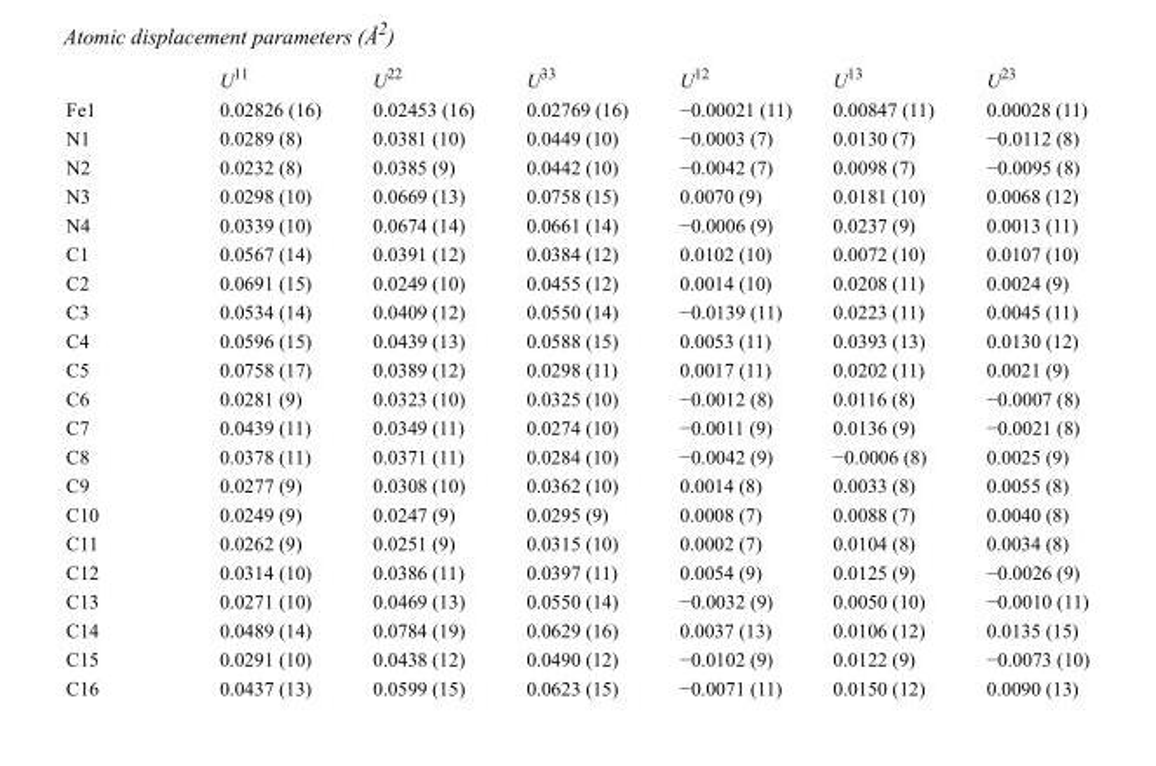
<table><thead><tr><td></td><td>U<sup>11</sup></td><td>U<sup>22</sup></td><td>U<sup>33</sup></td><td>U<sup>12</sup></td><td>U<sup>13</sup></td><td>U<sup>23</sup></td></tr></thead><tbody><tr><td>Fe1</td><td>0.02826 (16)</td><td>0.02453 (16)</td><td>0.02769 (16)</td><td>−0.00021 (11)</td><td>0.00847 (11)</td><td>0.00028 (11)</td></tr><tr><td>N1</td><td>0.0289 (8)</td><td>0.0381 (10)</td><td>0.0449 (10)</td><td>−0.0003 (7)</td><td>0.0130 (7)</td><td>−0.0112 (8)</td></tr><tr><td>N2</td><td>0.0232 (8)</td><td>0.0385 (9)</td><td>0.0442 (10)</td><td>−0.0042 (7)</td><td>0.0098 (7)</td><td>−0.0095 (8)</td></tr><tr><td>N3</td><td>0.0298 (10)</td><td>0.0669 (13)</td><td>0.0758 (15)</td><td>0.0070 (9)</td><td>0.0181 (10)</td><td>0.0068 (12)</td></tr><tr><td>N4</td><td>0.0339 (10)</td><td>0.0674 (14)</td><td>0.0661 (14)</td><td>−0.0006 (9)</td><td>0.0237 (9)</td><td>0.0013 (11)</td></tr><tr><td>C1</td><td>0.0567 (14)</td><td>0.0391 (12)</td><td>0.0384 (12)</td><td>0.0102 (10)</td><td>0.0072 (10)</td><td>0.0107 (10)</td></tr><tr><td>C2</td><td>0.0691 (15)</td><td>0.0249 (10)</td><td>0.0455 (12)</td><td>0.0014 (10)</td><td>0.0208 (11)</td><td>0.0024 (9)</td></tr><tr><td>C3</td><td>0.0534 (14)</td><td>0.0409 (12)</td><td>0.0550 (14)</td><td>−0.0139 (11)</td><td>0.0223 (11)</td><td>0.0045 (11)</td></tr><tr><td>C4</td><td>0.0596 (15)</td><td>0.0439 (13)</td><td>0.0588 (15)</td><td>0.0053 (11)</td><td>0.0393 (13)</td><td>0.0130 (12)</td></tr><tr><td>C5</td><td>0.0758 (17)</td><td>0.0389 (12)</td><td>0.0298 (11)</td><td>0.0017 (11)</td><td>0.0202 (11)</td><td>0.0021 (9)</td></tr><tr><td>C6</td><td>0.0281 (9)</td><td>0.0323 (10)</td><td>0.0325 (10)</td><td>−0.0012 (8)</td><td>0.0116 (8)</td><td>−0.0007 (8)</td></tr><tr><td>C7</td><td>0.0439 (11)</td><td>0.0349 (11)</td><td>0.0274 (10)</td><td>−0.0011 (9)</td><td>0.0136 (9)</td><td>−0.0021 (8)</td></tr><tr><td>C8</td><td>0.0378 (11)</td><td>0.0371 (11)</td><td>0.0284 (10)</td><td>−0.0042 (9)</td><td>−0.0006 (8)</td><td>0.0025 (9)</td></tr><tr><td>C9</td><td>0.0277 (9)</td><td>0.0308 (10)</td><td>0.0362 (10)</td><td>0.0014 (8)</td><td>0.0033 (8)</td><td>0.0055 (8)</td></tr><tr><td>C10</td><td>0.0249 (9)</td><td>0.0247 (9)</td><td>0.0295 (9)</td><td>0.0008 (7)</td><td>0.0088 (7)</td><td>0.0040 (8)</td></tr><tr><td>C11</td><td>0.0262 (9)</td><td>0.0251 (9)</td><td>0.0315 (10)</td><td>0.0002 (7)</td><td>0.0104 (8)</td><td>0.0034 (8)</td></tr><tr><td>C12</td><td>0.0314 (10)</td><td>0.0386 (11)</td><td>0.0397 (11)</td><td>0.0054 (9)</td><td>0.0125 (9)</td><td>−0.0026 (9)</td></tr><tr><td>C13</td><td>0.0271 (10)</td><td>0.0469 (13)</td><td>0.0550 (14)</td><td>−0.0032 (9)</td><td>0.0050 (10)</td><td>−0.0010 (11)</td></tr><tr><td>C14</td><td>0.0489 (14)</td><td>0.0784 (19)</td><td>0.0629 (16)</td><td>0.0037 (13)</td><td>0.0106 (12)</td><td>0.0135 (15)</td></tr><tr><td>C15</td><td>0.0291 (10)</td><td>0.0438 (12)</td><td>0.0490 (12)</td><td>−0.0102 (9)</td><td>0.0122 (9)</td><td>−0.0073 (10)</td></tr><tr><td>C16</td><td>0.0437 (13)</td><td>0.0599 (15)</td><td>0.0623 (15)</td><td>−0.0071 (11)</td><td>0.0150 (12)</td><td>0.0090 (13)</td></tr></tbody></table>